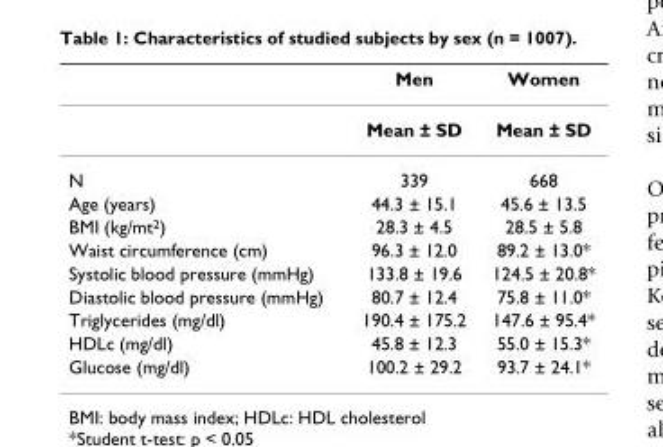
<table><thead><tr><td></td><td>Men</td><td>Women</td></tr></thead><tbody><tr><td></td><td>Mean ± SD</td><td>Mean ± SD</td></tr><tr><td>N</td><td>339</td><td>668</td></tr><tr><td>Age (years)</td><td>44.3 ± 15.1</td><td>45.6 ± 13.5</td></tr><tr><td>BMI (kg/mt<sup>2</sup>)</td><td>28.3 ± 4.5</td><td>28.5 ± 5.8</td></tr><tr><td>Waist circumference (cm)</td><td>96.3 ± 12.0</td><td>89.2 ± 13.0*</td></tr><tr><td>Systolic blood pressure (mmHg)</td><td>133.8 ± 19.6</td><td>124.5 ± 20.8*</td></tr><tr><td>Diastolic blood pressure (mmHg)</td><td>80.7 ± 12.4</td><td>75.8 ± 11.0*</td></tr><tr><td>Triglycerides (mg/dl)</td><td>190.4 ± 175.2</td><td>147.6 ± 95.4*</td></tr><tr><td>HDLc (mg/dl)</td><td>45.8 ± 12.3</td><td>55.0 ± 15.3*</td></tr><tr><td>Glucose (mg/dl)</td><td>100.2 ± 29.2</td><td>93.7 ± 24.1*</td></tr></tbody></table>